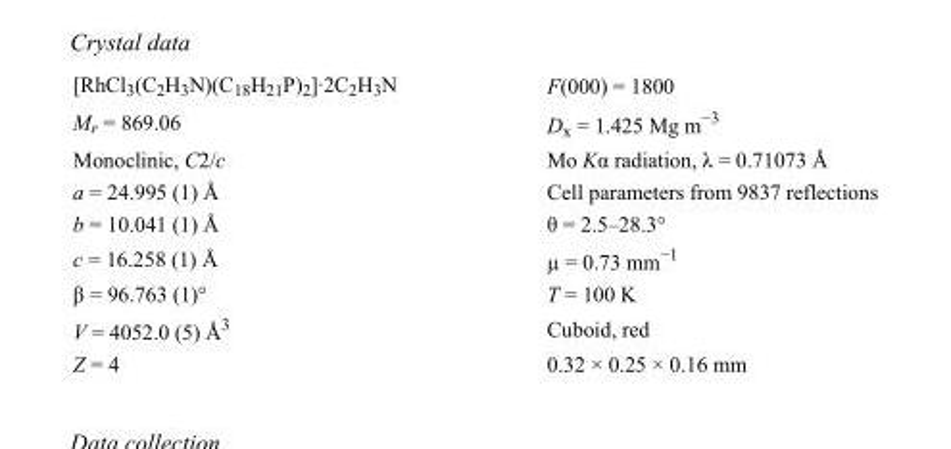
<table><tbody><tr><td>[RhCl<sub>3</sub>(C<sub>2</sub>H<sub>3</sub>N)(C<sub>18</sub>H<sub>21</sub>P)<sub>2</sub>]·2C<sub>2</sub>H<sub>3</sub>N</td><td>F(000) = 1800</td></tr><tr><td>M<sub>r</sub> = 869.06</td><td>D<sub>x</sub> = 1.425 Mg m<sup>−3</sup></td></tr><tr><td>Monoclinic, C2/c</td><td>Mo Kα radiation, λ = 0.71073 Å</td></tr><tr><td>a = 24.995 (1) Å</td><td>Cell parameters from 9837 reflections</td></tr><tr><td>b = 10.041 (1) Å</td><td>θ = 2.5–28.3°</td></tr><tr><td>c = 16.258 (1) Å</td><td>µ = 0.73 mm<sup>−1</sup></td></tr><tr><td>β = 96.763 (1)°</td><td>T = 100 K</td></tr><tr><td>V = 4052.0 (5) Å<sup>3</sup></td><td>Cuboid, red</td></tr><tr><td>Z = 4</td><td>0.32 × 0.25 × 0.16 mm</td></tr></tbody></table>